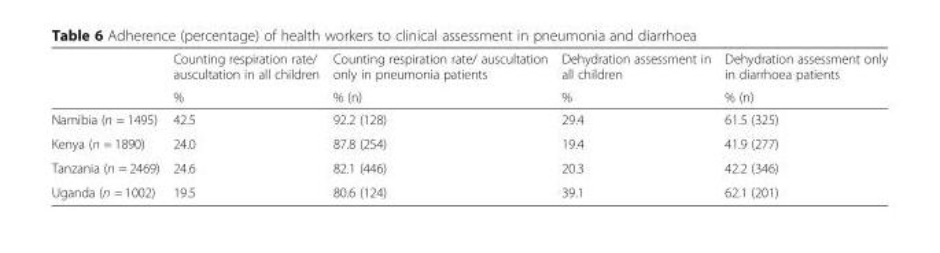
<table><thead><tr><td rowspan="2"></td><td rowspan="2">Counting respiration rate/ auscultation in all children %</td><td rowspan="2">Counting respiration rate/ auscultation only in pneumonia patients % (n)</td><td rowspan="2">Dehydration assessment in all children %</td><td rowspan="2">Dehydration assessment only in diarrhoea patients % (n)</td></tr><tr></tr></thead><tbody><tr><td>Namibia (n = 1495)</td><td>42.5</td><td>92.2 (128)</td><td>29.4</td><td>61.5 (325)</td></tr><tr><td>Kenya (n = 1890)</td><td>24.0</td><td>87.8 (254)</td><td>19.4</td><td>41.9 (277)</td></tr><tr><td>Tanzania (n = 2469)</td><td>24.6</td><td>82.1 (446)</td><td>20.3</td><td>42.2 (346)</td></tr><tr><td>Uganda (n = 1002)</td><td>19.5</td><td>80.6 (124)</td><td>39.1</td><td>62.1 (201)</td></tr></tbody></table>